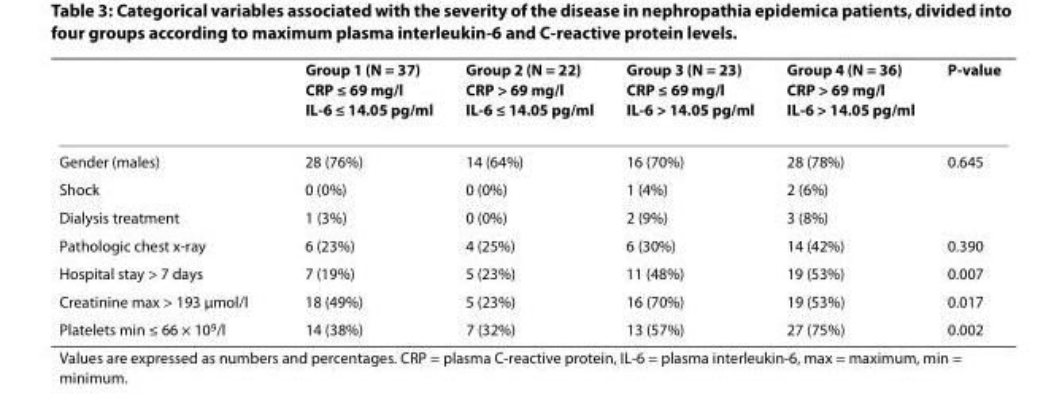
<table><thead><tr><td></td><td>Group 1 (N = 37) CRP ≤ 69 mg/l IL-6 ≤ 14.05 pg/ml</td><td>Group 2 (N = 22) CRP &gt; 69 mg/l IL-6 ≤ 14.05 pg/ml</td><td>Group 3 (N = 23) CRP ≤ 69 mg/l IL-6 &gt; 14.05 pg/ml</td><td>Group 4 (N = 36) CRP &gt; 69 mg/l IL-6 &gt; 14.05 pg/ml</td><td>P-value</td></tr></thead><tbody><tr><td>Gender (males)</td><td>28 (76%)</td><td>14 (64%)</td><td>16 (70%)</td><td>28 (78%)</td><td>0.645</td></tr><tr><td>Shock</td><td>0 (0%)</td><td>0 (0%)</td><td>1 (4%)</td><td>2 (6%)</td><td></td></tr><tr><td>Dialysis treatment</td><td>1 (3%)</td><td>0 (0%)</td><td>2 (9%)</td><td>3 (8%)</td><td></td></tr><tr><td>Pathologic chest x-ray</td><td>6 (23%)</td><td>4 (25%)</td><td>6 (30%)</td><td>14 (42%)</td><td>0.390</td></tr><tr><td>Hospital stay &gt; 7 days</td><td>7 (19%)</td><td>5 (23%)</td><td>11 (48%)</td><td>19 (53%)</td><td>0.007</td></tr><tr><td>Creatinine max &gt; 193 μmol/l</td><td>18 (49%)</td><td>5 (23%)</td><td>16 (70%)</td><td>19 (53%)</td><td>0.017</td></tr><tr><td>Platelets min ≤ 66 × 10<sup>9</sup>/l</td><td>14 (38%)</td><td>7 (32%)</td><td>13 (57%)</td><td>27 (75%)</td><td>0.002</td></tr></tbody></table>